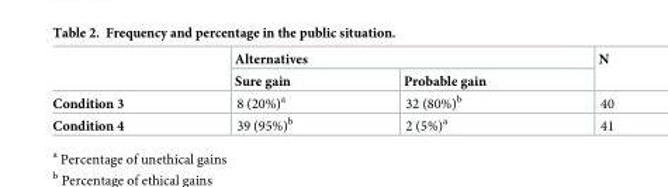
<table><thead><tr><td rowspan="2"></td><td colspan="2">Alternatives</td><td rowspan="2">N</td></tr><tr><td>Sure gain</td><td>Probable gain</td></tr></thead><tbody><tr><td>Condition 3</td><td>8 (20%)<sup>a</sup></td><td>32 (80%)<sup>b</sup></td><td>40</td></tr><tr><td>Condition 4</td><td>39 (95%)<sup>b</sup></td><td>2 (5%)<sup>a</sup></td><td>41</td></tr></tbody></table>